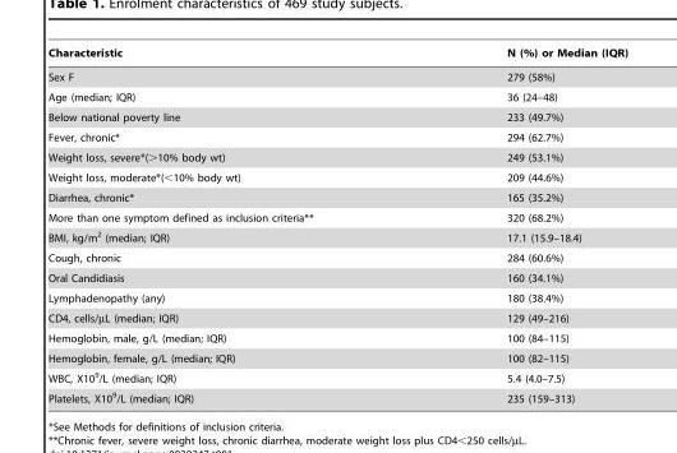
<table><thead><tr><td>Characteristic</td><td>N (%) or Median (IQR)</td></tr></thead><tbody><tr><td>Sex F</td><td>279 (58%)</td></tr><tr><td>Age (median; IQR)</td><td>36 (24–48)</td></tr><tr><td>Below national poverty line</td><td>233 (49.7%)</td></tr><tr><td>Fever, chronic*</td><td>294 (62.7%)</td></tr><tr><td>Weight loss, severe*(&gt;10% body wt)</td><td>249 (53.1%)</td></tr><tr><td>Weight loss, moderate*(&lt;10% body wt)</td><td>209 (44.6%)</td></tr><tr><td>Diarrhea, chronic*</td><td>165 (35.2%)</td></tr><tr><td>More than one symptom defined as inclusion criteria**</td><td>320 (68.2%)</td></tr><tr><td>BMI, kg/m<sup>2</sup> (median; IQR)</td><td>17.1 (15.9–18.4)</td></tr><tr><td>Cough, chronic</td><td>284 (60.6%)</td></tr><tr><td>Oral Candidiasis</td><td>160 (34.1%)</td></tr><tr><td>Lymphadenopathy (any)</td><td>180 (38.4%)</td></tr><tr><td>CD4, cells/µL (median; IQR)</td><td>129 (49–216)</td></tr><tr><td>Hemoglobin, male, g/L (median; IQR)</td><td>100 (84–115)</td></tr><tr><td>Hemoglobin, female, g/L (median; IQR)</td><td>100 (82–115)</td></tr><tr><td>WBC, X10<sup>9</sup>/L (median; IQR)</td><td>5.4 (4.0–7.5)</td></tr><tr><td>Platelets, X10<sup>9</sup>/L (median; IQR)</td><td>235 (159–313)</td></tr></tbody></table>